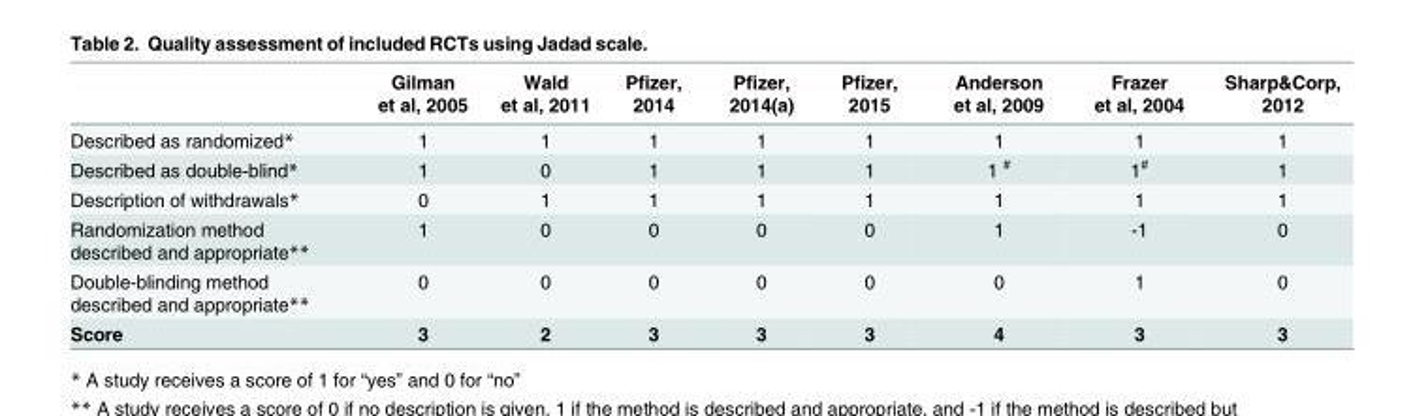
<table><thead><tr><td></td><td>Gilman et al, 2005</td><td>Wald et al, 2011</td><td>Pfizer, 2014</td><td>Pfizer, 2014(a)</td><td>Pfizer, 2015</td><td>Anderson et al, 2009</td><td>Frazer et al, 2004</td><td>Sharp&amp;Corp, 2012</td></tr></thead><tbody><tr><td>Described as randomized*</td><td>1</td><td>1</td><td>1</td><td>1</td><td>1</td><td>1</td><td>1</td><td>1</td></tr><tr><td>Described as double-blind*</td><td>1</td><td>0</td><td>1</td><td>1</td><td>1</td><td>1 <sup>#</sup></td><td>1<sup>#</sup></td><td>1</td></tr><tr><td>Description of withdrawals*</td><td>0</td><td>1</td><td>1</td><td>1</td><td>1</td><td>1</td><td>1</td><td>1</td></tr><tr><td>Randomization method described and appropriate**</td><td>1</td><td>0</td><td>0</td><td>0</td><td>0</td><td>1</td><td>-1</td><td>0</td></tr><tr><td>Double-blinding method described and appropriate**</td><td>0</td><td>0</td><td>0</td><td>0</td><td>0</td><td>0</td><td>1</td><td>0</td></tr><tr><td>Score</td><td>3</td><td>2</td><td>3</td><td>3</td><td>3</td><td>4</td><td>3</td><td>3</td></tr></tbody></table>